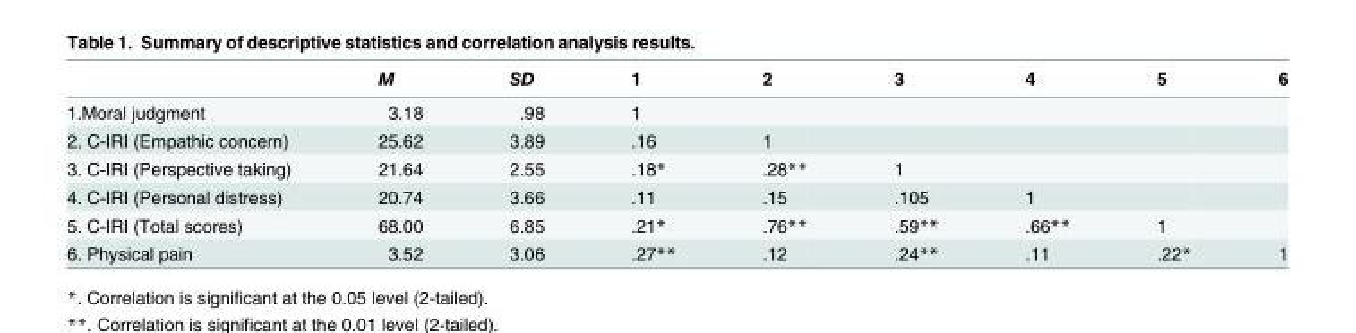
<table><thead><tr><td></td><td>M</td><td>SD</td><td>1</td><td>2</td><td>3</td><td>4</td><td>5</td><td>6</td></tr></thead><tbody><tr><td>1.Moral judgment</td><td>3.18</td><td>.98</td><td>1</td><td></td><td></td><td></td><td></td><td></td></tr><tr><td>2. C-IRI (Empathic concern)</td><td>25.62</td><td>3.89</td><td>.16</td><td>1</td><td></td><td></td><td></td><td></td></tr><tr><td>3. C-IRI (Perspective taking)</td><td>21.64</td><td>2.55</td><td>.18*</td><td>.28**</td><td>1</td><td></td><td></td><td></td></tr><tr><td>4. C-IRI (Personal distress)</td><td>20.74</td><td>3.66</td><td>.11</td><td>.15</td><td>.105</td><td>1</td><td></td><td></td></tr><tr><td>5. C-IRI (Total scores)</td><td>68.00</td><td>6.85</td><td>.21*</td><td>.76**</td><td>.59**</td><td>.66**</td><td>1</td><td></td></tr><tr><td>6. Physical pain</td><td>3.52</td><td>3.06</td><td>.27**</td><td>.12</td><td>.24**</td><td>.11</td><td>.22*</td><td>1</td></tr></tbody></table>